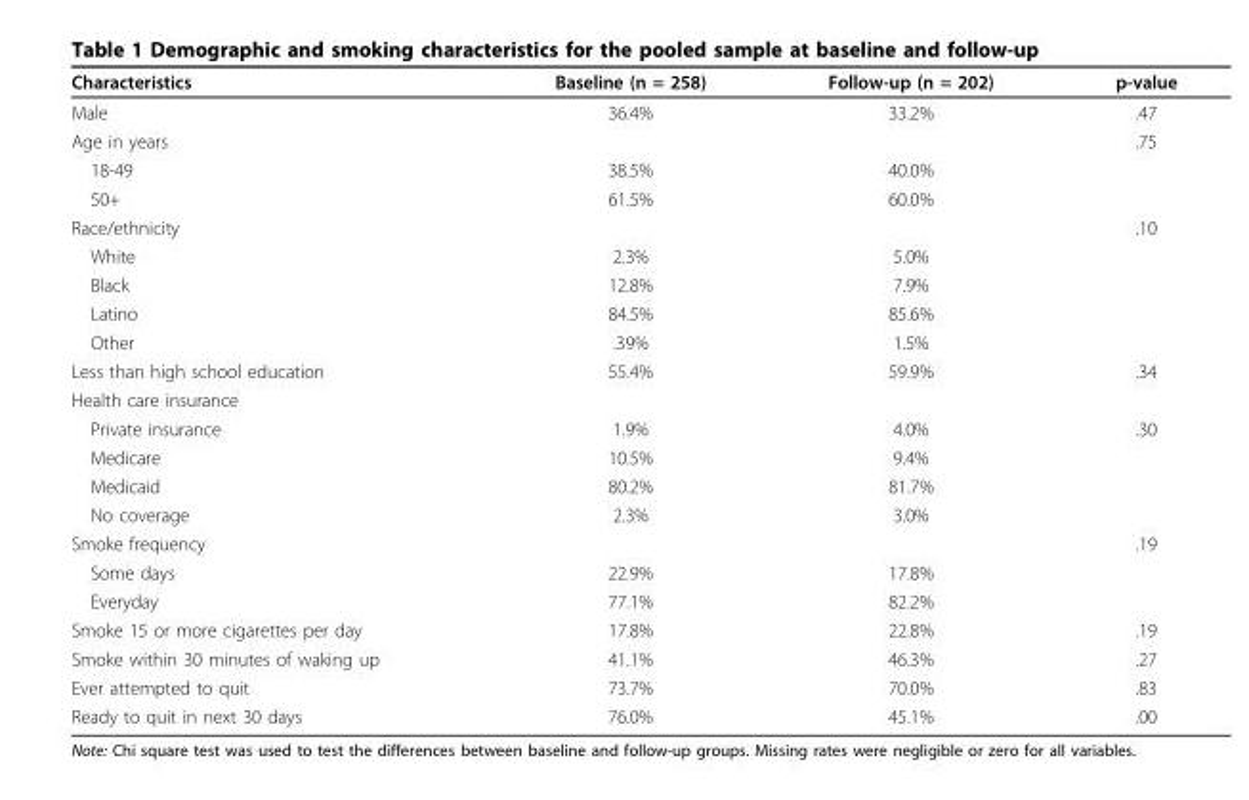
<table><thead><tr><td>Characteristics</td><td>Baseline (n = 258)</td><td>Follow-up (n = 202)</td><td>p-value</td></tr></thead><tbody><tr><td>Male</td><td>36.4%</td><td>33.2%</td><td>.47</td></tr><tr><td>Age in years</td><td></td><td></td><td>.75</td></tr><tr><td>18-49</td><td>38.5%</td><td>40.0%</td><td></td></tr><tr><td>50+</td><td>61.5%</td><td>60.0%</td><td></td></tr><tr><td>Race/ethnicity</td><td></td><td></td><td>.10</td></tr><tr><td>White</td><td>2.3%</td><td>5.0%</td><td></td></tr><tr><td>Black</td><td>12.8%</td><td>7.9%</td><td></td></tr><tr><td>Latino</td><td>84.5%</td><td>85.6%</td><td></td></tr><tr><td>Other</td><td>.39%</td><td>1.5%</td><td></td></tr><tr><td>Less than high school education</td><td>55.4%</td><td>59.9%</td><td>.34</td></tr><tr><td colspan="4">Health care insurance</td></tr><tr><td>Private insurance</td><td>1.9%</td><td>4.0%</td><td>.30</td></tr><tr><td>Medicare</td><td>10.5%</td><td>9.4%</td><td></td></tr><tr><td>Medicaid</td><td>80.2%</td><td>81.7%</td><td></td></tr><tr><td>No coverage</td><td>2.3%</td><td>3.0%</td><td></td></tr><tr><td>Smoke frequency</td><td></td><td></td><td>.19</td></tr><tr><td>Some days</td><td>22.9%</td><td>17.8%</td><td></td></tr><tr><td>Everyday</td><td>77.1%</td><td>82.2%</td><td></td></tr><tr><td>Smoke 15 or more cigarettes per day</td><td>17.8%</td><td>22.8%</td><td>.19</td></tr><tr><td>Smoke within 30 minutes of waking up</td><td>41.1%</td><td>46.3%</td><td>.27</td></tr><tr><td>Ever attempted to quit</td><td>73.7%</td><td>70.0%</td><td>.83</td></tr><tr><td>Ready to quit in next 30 days</td><td>76.0%</td><td>45.1%</td><td>.00</td></tr></tbody></table>